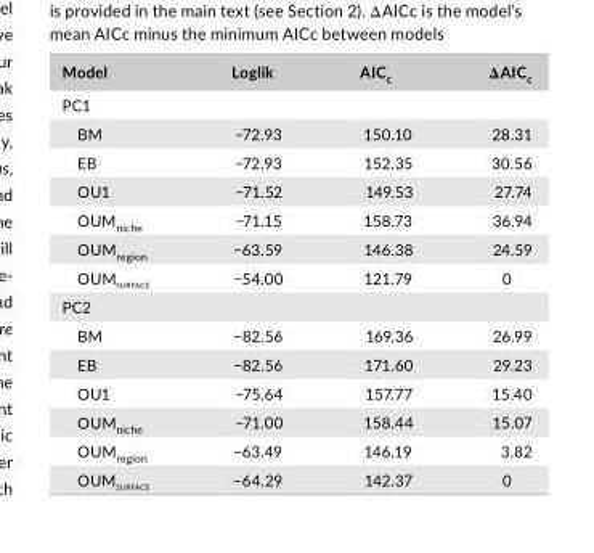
<table><thead><tr><td>Model</td><td>Loglik</td><td>AIC<sub>c</sub></td><td>ΔAIC<sub>c</sub></td></tr></thead><tbody><tr><td colspan="4">PC1</td></tr><tr><td>BM</td><td>−72.93</td><td>150.10</td><td>28.31</td></tr><tr><td>EB</td><td>−72.93</td><td>152.35</td><td>30.56</td></tr><tr><td>OU1</td><td>−71.52</td><td>149.53</td><td>27.74</td></tr><tr><td>OUM<sub>niche</sub></td><td>−71.15</td><td>158.73</td><td>36.94</td></tr><tr><td>OUM<sub>region</sub></td><td>−63.59</td><td>146.38</td><td>24.59</td></tr><tr><td>OUM<sub>surface</sub></td><td>−54.00</td><td>121.79</td><td>0</td></tr><tr><td colspan="4">PC2</td></tr><tr><td>BM</td><td>−82.56</td><td>169.36</td><td>26.99</td></tr><tr><td>EB</td><td>−82.56</td><td>171.60</td><td>29.23</td></tr><tr><td>OU1</td><td>−75.64</td><td>157.77</td><td>15.40</td></tr><tr><td>OUM<sub>niche</sub></td><td>−71.00</td><td>158.44</td><td>15.07</td></tr><tr><td>OUM<sub>region</sub></td><td>−63.49</td><td>146.19</td><td>3.82</td></tr><tr><td>OUM<sub>surface</sub></td><td>−64.29</td><td>142.37</td><td>0</td></tr></tbody></table>